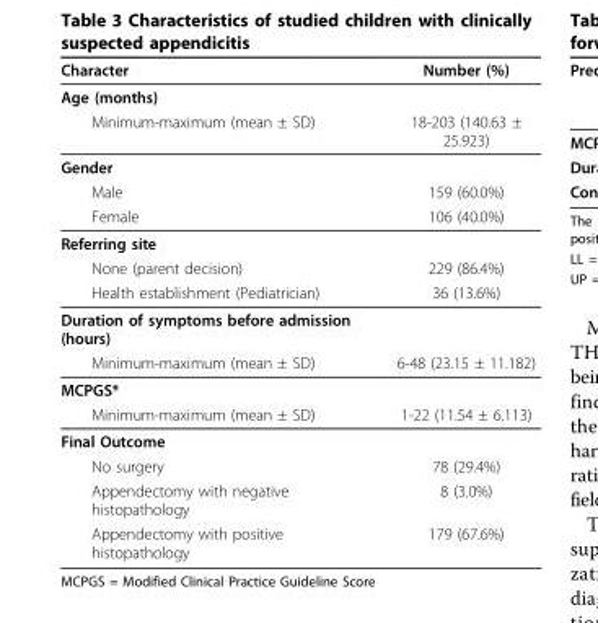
<table><thead><tr><td>Character</td><td>Number (%)</td></tr></thead><tbody><tr><td colspan="2">Age (months)</td></tr><tr><td>Minimum-maximum (mean ± SD)</td><td>18-203 (140.63 ± 25.923)</td></tr><tr><td colspan="2">Gender</td></tr><tr><td>Male</td><td>159 (60.0%)</td></tr><tr><td>Female</td><td>106 (40.0%)</td></tr><tr><td colspan="2">Referring site</td></tr><tr><td>None (parent decision)</td><td>229 (86.4%)</td></tr><tr><td>Health establishment (Pediatrician)</td><td>36 (13.6%)</td></tr><tr><td colspan="2">Duration of symptoms before admission (hours)</td></tr><tr><td>Minimum-maximum (mean ± SD)</td><td>6-48 (23.15 ± 11.182)</td></tr><tr><td colspan="2">MCPGS*</td></tr><tr><td>Minimum-maximum (mean ± SD)</td><td>1-22 (11.54 ± 6.113)</td></tr><tr><td colspan="2">Final Outcome</td></tr><tr><td>No surgery</td><td>78 (29.4%)</td></tr><tr><td>Appendectomy with negative histopathology</td><td>8 (3.0%)</td></tr><tr><td>Appendectomy with positive histopathology</td><td>179 (67.6%)</td></tr></tbody></table>